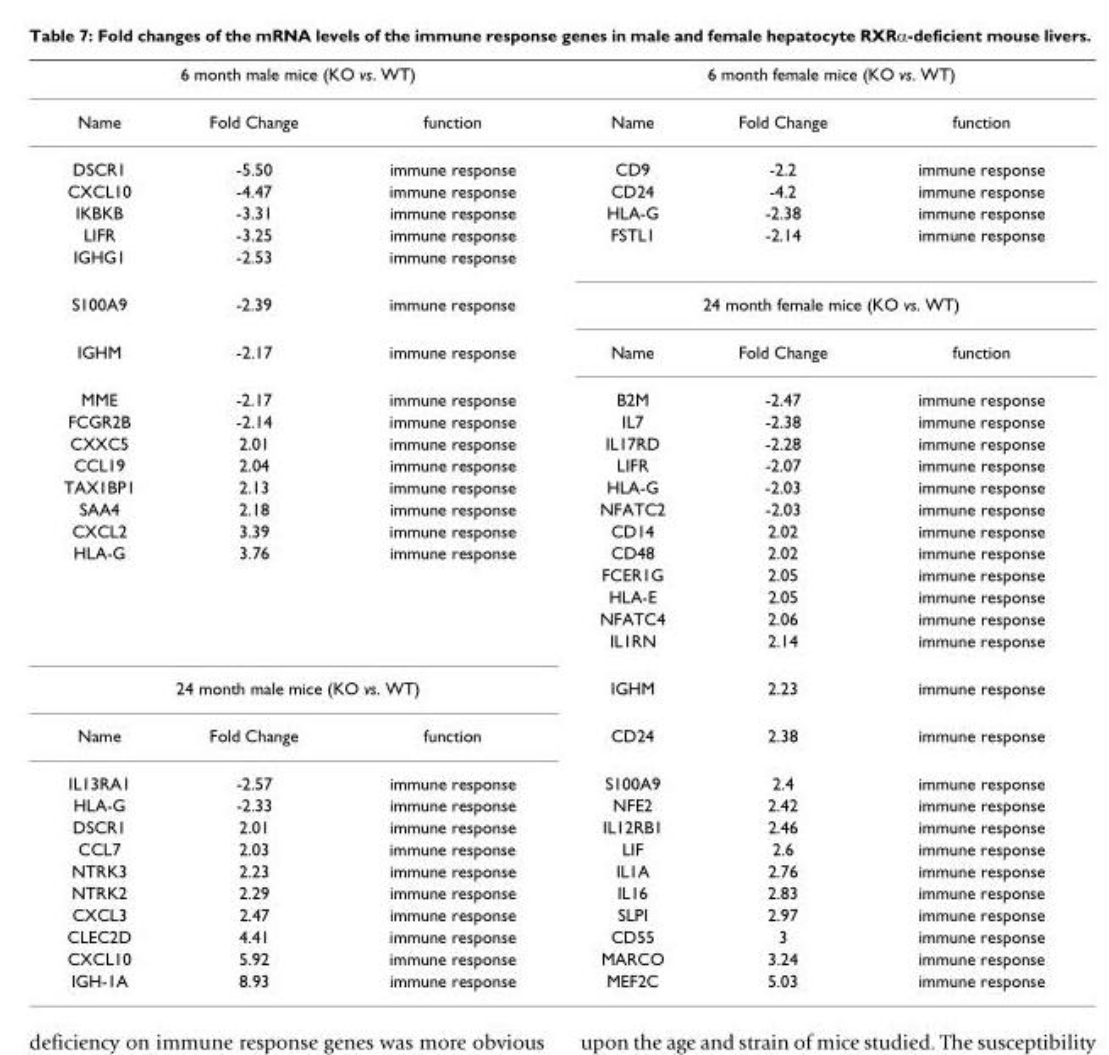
<table><thead><tr><td colspan="3">6 month male mice (KO vs. WT)</td><td colspan="3">6 month female mice (KO vs. WT)</td></tr><tr><td>Name</td><td>Fold Change</td><td>function</td><td>Name</td><td>Fold Change</td><td>function</td></tr></thead><tbody><tr><td>DSCR1</td><td>-5.50</td><td>immune response</td><td>CD9</td><td>-2.2</td><td>immune response</td></tr><tr><td>CXCL10</td><td>-4.47</td><td>immune response</td><td>CD24</td><td>-4.2</td><td>immune response</td></tr><tr><td>IKBKB</td><td>-3.31</td><td>immune response</td><td>HLA-G</td><td>-2.38</td><td>immune response</td></tr><tr><td>LIFR</td><td>-3.25</td><td>immune response</td><td>FSTL1</td><td>-2.14</td><td>immune response</td></tr><tr><td>IGHG1</td><td>-2.53</td><td>immune response</td><td></td><td></td><td></td></tr><tr><td>S100A9</td><td>-2.39</td><td>immune response</td><td colspan="3">24 month female mice (KO vs. WT)</td></tr><tr><td>IGHM</td><td>-2.17</td><td>immune response</td><td>Name</td><td>Fold Change</td><td>function</td></tr><tr><td>MME</td><td>-2.17</td><td>immune response</td><td>B2M</td><td>-2.47</td><td>immune response</td></tr><tr><td>FCGR2B</td><td>-2.14</td><td>immune response</td><td>IL7</td><td>-2.38</td><td>immune response</td></tr><tr><td>CXXC5</td><td>2.01</td><td>immune response</td><td>IL17RD</td><td>-2.28</td><td>immune response</td></tr><tr><td>CCL19</td><td>2.04</td><td>immune response</td><td>LIFR</td><td>-2.07</td><td>immune response</td></tr><tr><td>TAX1BP1</td><td>2.13</td><td>immune response</td><td>HLA-G</td><td>-2.03</td><td>immune response</td></tr><tr><td>SAA4</td><td>2.18</td><td>immune response</td><td>NFATC2</td><td>-2.03</td><td>immune response</td></tr><tr><td>CXCL2</td><td>3.39</td><td>immune response</td><td>CD14</td><td>2.02</td><td>immune response</td></tr><tr><td rowspan="5">HLA-G</td><td>3.76</td><td>immune response</td><td>CD48</td><td>2.02</td><td>immune response</td></tr><tr><td></td><td></td><td>FCER1G</td><td>2.05</td><td>immune response</td></tr><tr><td></td><td></td><td>HLA-E</td><td>2.05</td><td>immune response</td></tr><tr><td></td><td></td><td>NFATC4</td><td>2.06</td><td>immune response</td></tr><tr><td></td><td></td><td>IL1RN</td><td>2.14</td><td>immune response</td></tr><tr><td colspan="3">24 month male mice (KO vs. WT)</td><td>IGHM</td><td>2.23</td><td>immune response</td></tr><tr><td>Name</td><td>Fold Change</td><td>function</td><td>CD24</td><td>2.38</td><td>immune response</td></tr><tr><td>IL13RA1</td><td>-2.57</td><td>immune response</td><td>S100A9</td><td>2.4</td><td>immune response</td></tr><tr><td>HLA-G</td><td>-2.33</td><td>immune response</td><td>NFE2</td><td>2.42</td><td>immune response</td></tr><tr><td>DSCR1</td><td>2.01</td><td>immune response</td><td>IL12RB1</td><td>2.46</td><td>immune response</td></tr><tr><td>CCL7</td><td>2.03</td><td>immune response</td><td>LIF</td><td>2.6</td><td>immune response</td></tr><tr><td>NTRK3</td><td>2.23</td><td>immune response</td><td>IL1A</td><td>2.76</td><td>immune response</td></tr><tr><td>NTRK2</td><td>2.29</td><td>immune response</td><td>IL16</td><td>2.83</td><td>immune response</td></tr><tr><td>CXCL3</td><td>2.47</td><td>immune response</td><td>SLPI</td><td>2.97</td><td>immune response</td></tr><tr><td>CLEC2D</td><td>4.41</td><td>immune response</td><td>CD55</td><td>3</td><td>immune response</td></tr><tr><td>CXCL10</td><td>5.92</td><td>immune response</td><td>MARCO</td><td>3.24</td><td>immune response</td></tr><tr><td>IGH-1A</td><td>8.93</td><td>immune response</td><td>MEF2C</td><td>5.03</td><td>immune response</td></tr></tbody></table>